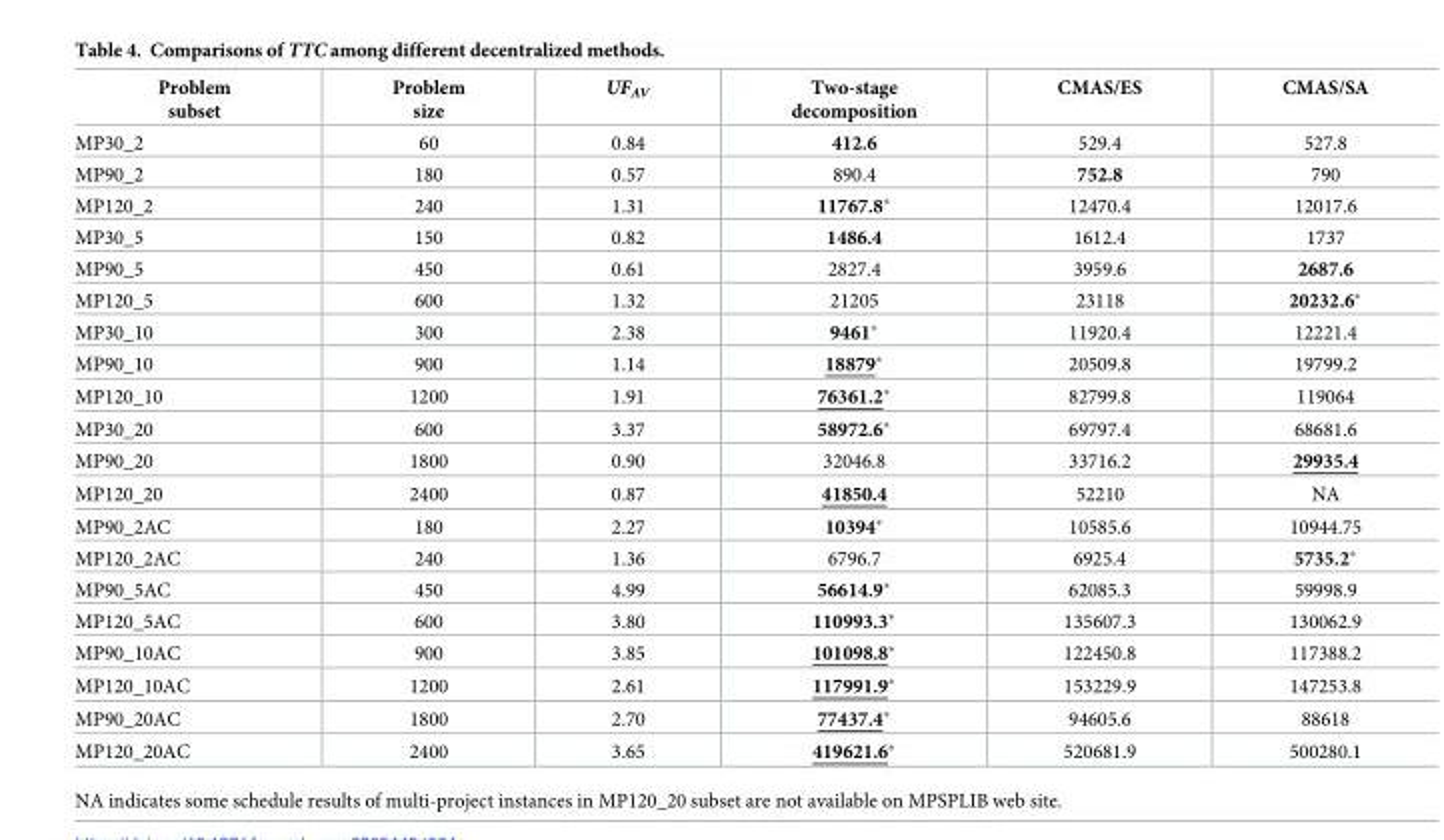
<table><thead><tr><td>Problem subset</td><td>Problem size</td><td>UF<sub>AV</sub></td><td>Two-stage decomposition</td><td>CMAS/ES</td><td>CMAS/SA</td></tr></thead><tbody><tr><td>MP30_2</td><td>60</td><td>0.84</td><td>412.6</td><td>529.4</td><td>527.8</td></tr><tr><td>MP90_2</td><td>180</td><td>0.57</td><td>890.4</td><td>752.8</td><td>790</td></tr><tr><td>MP120_2</td><td>240</td><td>1.31</td><td>11767.8*</td><td>12470.4</td><td>12017.6</td></tr><tr><td>MP30_5</td><td>150</td><td>0.82</td><td>1486.4</td><td>1612.4</td><td>1737</td></tr><tr><td>MP90_5</td><td>450</td><td>0.61</td><td>2827.4</td><td>3959.6</td><td>2687.6</td></tr><tr><td>MP120_5</td><td>600</td><td>1.32</td><td>21205</td><td>23118</td><td>20232.6*</td></tr><tr><td>MP30_10</td><td>300</td><td>2.38</td><td>9461*</td><td>11920.4</td><td>12221.4</td></tr><tr><td>MP90_10</td><td>900</td><td>1.14</td><td>18879*</td><td>20509.8</td><td>19799.2</td></tr><tr><td>MP120_10</td><td>1200</td><td>1.91</td><td>76361.2*</td><td>82799.8</td><td>119064</td></tr><tr><td>MP30_20</td><td>600</td><td>3.37</td><td>58972.6*</td><td>69797.4</td><td>68681.6</td></tr><tr><td>MP90_20</td><td>1800</td><td>0.90</td><td>32046.8</td><td>33716.2</td><td>29935.4</td></tr><tr><td>MP120_20</td><td>2400</td><td>0.87</td><td>41850.4</td><td>52210</td><td>NA</td></tr><tr><td>MP90_2AC</td><td>180</td><td>2.27</td><td>10394*</td><td>10585.6</td><td>10944.75</td></tr><tr><td>MP120_2AC</td><td>240</td><td>1.36</td><td>6796.7</td><td>6925.4</td><td>5735.2*</td></tr><tr><td>MP90_5AC</td><td>450</td><td>4.99</td><td>56614.9*</td><td>62085.3</td><td>59998.9</td></tr><tr><td>MP120_5AC</td><td>600</td><td>3.80</td><td>110993.3*</td><td>135607.3</td><td>130062.9</td></tr><tr><td>MP90_10AC</td><td>900</td><td>3.85</td><td>101098.8*</td><td>122450.8</td><td>117388.2</td></tr><tr><td>MP120_10AC</td><td>1200</td><td>2.61</td><td>117991.9*</td><td>153229.9</td><td>147253.8</td></tr><tr><td>MP90_20AC</td><td>1800</td><td>2.70</td><td>77437.4*</td><td>94605.6</td><td>88618</td></tr><tr><td>MP120_20AC</td><td>2400</td><td>3.65</td><td>419621.6*</td><td>520681.9</td><td>500280.1</td></tr></tbody></table>